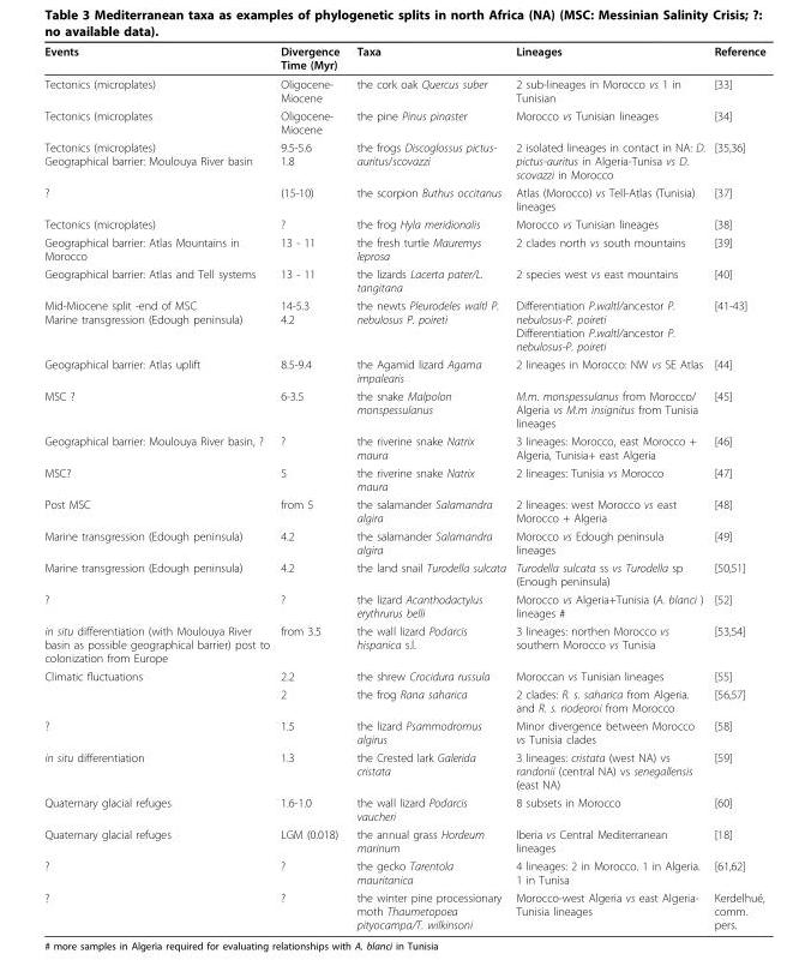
<table><thead><tr><td>Events</td><td>Divergence Time (Myr)</td><td>Taxa</td><td>Lineages</td><td>Reference</td></tr></thead><tbody><tr><td>Tectonics (microplates)</td><td>Oligocene- Miocene</td><td>the cork oak Quercus suber</td><td>2 sub-lineages in Morocco vs 1 in Tunisian</td><td>[33]</td></tr><tr><td>Tectonics (microplates</td><td>Oligocene- Miocene</td><td>the pine Pinus pinaster</td><td>Morocco vs Tunisian lineages</td><td>[34]</td></tr><tr><td>Tectonics (microplates) Geographical barrier: Moulouya River basin</td><td>9.5-5.6 1.8</td><td>the frogs Discoglossus pictus- auritus/scovazzi</td><td>2 isolated lineages in contact in NA: D. pictus-auritus in Algeria-Tunisa vs D. scovazzi in Morocco</td><td>[35,36]</td></tr><tr><td>?</td><td>(15-10)</td><td>the scorpion Buthus occitanus</td><td>Atlas (Morocco) vs Tell-Atlas (Tunisia) lineages</td><td>[37]</td></tr><tr><td>Tectonics (microplates)</td><td>?</td><td>the frog Hyla meridionalis</td><td>Morocco vs Tunisian lineages</td><td>[38]</td></tr><tr><td>Geographical barrier: Atlas Mountains in Morocco</td><td>13 - 11</td><td>the fresh turtle Mauremys leprosa</td><td>2 clades north vs south mountains</td><td>[39]</td></tr><tr><td>Geographical barrier: Atlas and Tell systems</td><td>13 - 11</td><td>the lizards Lacerta pater/L. tangitana</td><td>2 species west vs east mountains</td><td>[40]</td></tr><tr><td>Mid-Miocene split -end of MSC Marine transgression (Edough peninsula)</td><td>14-5.3 4.2</td><td>the newts Pleurodeles waltl P. nebulosus P. poireti</td><td>Differentiation P.waltl/ancestor P. nebulosus-P. poireti Differentiation P.waltl/ancestor P. nebulosus-P. poireti</td><td>[41-43]</td></tr><tr><td>Geographical barrier: Atlas uplift</td><td>8.5-9.4</td><td>the Agamid lizard Agama impalearis</td><td>2 lineages in Morocco: NW vs SE Atlas</td><td>[44]</td></tr><tr><td>MSC ?</td><td>6-3.5</td><td>the snake Malpolon monspessulanus</td><td>M.m. monspessulanus from Morocco/ Algeria vs M.m insignitus from Tunisia lineages</td><td>[45]</td></tr><tr><td>Geographical barrier: Moulouya River basin, ?</td><td>?</td><td>the riverine snake Natrix maura</td><td>3 lineages: Morocco, east Morocco + Algeria, Tunisia+ east Algeria</td><td>[46]</td></tr><tr><td>MSC?</td><td>5</td><td>the riverine snake Natrix maura</td><td>2 lineages: Tunisia vs Morocco</td><td>[47]</td></tr><tr><td>Post MSC</td><td>from 5</td><td>the salamander Salamandra algira</td><td>2 lineages: west Morocco vs east Morocco + Algeria</td><td>[48]</td></tr><tr><td>Marine transgression (Edough peninsula)</td><td>4.2</td><td>the salamander Salamandra algira</td><td>Morocco vs Edough peninsula lineages</td><td>[49]</td></tr><tr><td>Marine transgression (Edough peninsula)</td><td>4.2</td><td>the land snail Turodella sulcata</td><td>Turodella sulcata ss vs Turodella sp (Enough peninsula)</td><td>[50,51]</td></tr><tr><td>?</td><td>?</td><td>the lizard Acanthodactylus erythrurus belli</td><td>Morocco vs Algeria+Tunisia (A. blanci ) lineages #</td><td>[52]</td></tr><tr><td>in situ differentiation (with Moulouya River basin as possible geographical barrier) post to colonization from Europe</td><td>from 3.5</td><td>the wall lizard Podarcis hispanica s.l.</td><td>3 lineages: northen Morocco vs southern Morocco vs Tunisia</td><td>[53,54]</td></tr><tr><td rowspan="2">Climatic fluctuations</td><td>2.2</td><td>the shrew Crocidura russula</td><td>Moroccan vs Tunisian lineages</td><td>[55]</td></tr><tr><td>2</td><td>the frog Rana saharica</td><td>2 clades: R. s. saharica from Algeria. and R. s. riodeoroi from Morocco</td><td>[56,57]</td></tr><tr><td>?</td><td>1.5</td><td>the lizard Psammodromus algirus</td><td>Minor divergence between Morocco vs Tunisia clades</td><td>[58]</td></tr><tr><td>in situ differentiation</td><td>1.3</td><td>the Crested lark Galerida cristata</td><td>3 lineages: cristata (west NA) vs randonii (central NA) vs senegallensis (east NA)</td><td>[59]</td></tr><tr><td>Quaternary glacial refuges</td><td>1.6-1.0</td><td>the wall lizard Podarcis vaucheri</td><td>8 subsets in Morocco</td><td>[60]</td></tr><tr><td>Quaternary glacial refuges</td><td>LGM (0.018)</td><td>the annual grass Hordeum marinum</td><td>Iberia vs Central Mediterranean lineages</td><td>[18]</td></tr><tr><td>?</td><td>?</td><td>the gecko Tarentola mauritanica</td><td>4 lineages: 2 in Morocco. 1 in Algeria. 1 in Tunisa</td><td>[61,62]</td></tr><tr><td>?</td><td>?</td><td>the winter pine processionary moth Thaumetopoea pityocampa/T. wilkinsoni</td><td>Morocco-west Algeria vs east Algeria- Tunisia lineages</td><td>Kerdelhué, comm. pers.</td></tr></tbody></table>